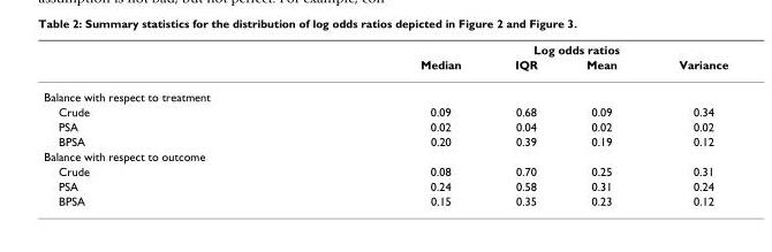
<table><thead><tr><td rowspan="2"></td><td colspan="4">Log odds ratios</td></tr><tr><td>Median</td><td>IQR</td><td>Mean</td><td>Variance</td></tr></thead><tbody><tr><td colspan="5">Balance with respect to treatment</td></tr><tr><td>Crude</td><td>0.09</td><td>0.68</td><td>0.09</td><td>0.34</td></tr><tr><td>PSA</td><td>0.02</td><td>0.04</td><td>0.02</td><td>0.02</td></tr><tr><td>BPSA</td><td>0.20</td><td>0.39</td><td>0.19</td><td>0.12</td></tr><tr><td colspan="5">Balance with respect to outcome</td></tr><tr><td>Crude</td><td>0.08</td><td>0.70</td><td>0.25</td><td>0.31</td></tr><tr><td>PSA</td><td>0.24</td><td>0.58</td><td>0.31</td><td>0.24</td></tr><tr><td>BPSA</td><td>0.15</td><td>0.35</td><td>0.23</td><td>0.12</td></tr></tbody></table>